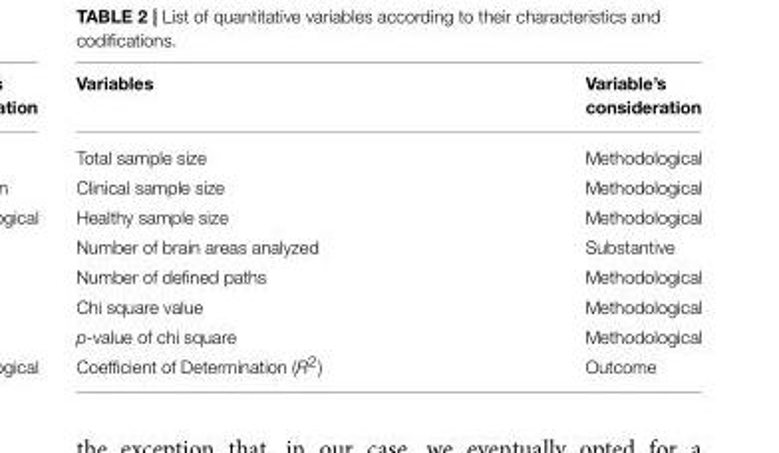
<table><thead><tr><td>Variables</td><td>Variable’s consideration</td></tr></thead><tbody><tr><td>Total sample size</td><td>Methodological</td></tr><tr><td>Clinical sample size</td><td>Methodological</td></tr><tr><td>Healthy sample size</td><td>Methodological</td></tr><tr><td>Number of brain areas analyzed</td><td>Substantive</td></tr><tr><td>Number of defined paths</td><td>Methodological</td></tr><tr><td>Chi square value</td><td>Methodological</td></tr><tr><td>p-value of chi square</td><td>Methodological</td></tr><tr><td>Coefficient of Determination (R<sup>2</sup>)</td><td>Outcome</td></tr></tbody></table>